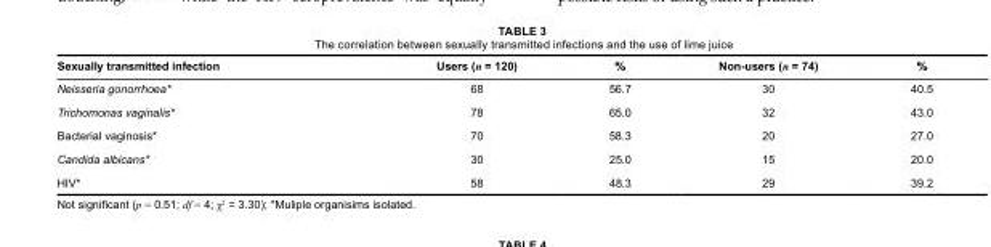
<table><thead><tr><td>Sexually transmitted infection</td><td>Users (n = 120)</td><td>%</td><td>Non-users (n = 74)</td><td>%</td></tr></thead><tbody><tr><td>Neisseria gonorrhoea*</td><td>68</td><td>56.7</td><td>30</td><td>40.5</td></tr><tr><td>Trichomonas vaginalis*</td><td>78</td><td>65.0</td><td>32</td><td>43.0</td></tr><tr><td>Bacterial vaginosis*</td><td>70</td><td>58.3</td><td>20</td><td>27.0</td></tr><tr><td>Candida albicans*</td><td>30</td><td>25.0</td><td>15</td><td>20.0</td></tr><tr><td>HIV*</td><td>58</td><td>48.3</td><td>29</td><td>39.2</td></tr></tbody></table>